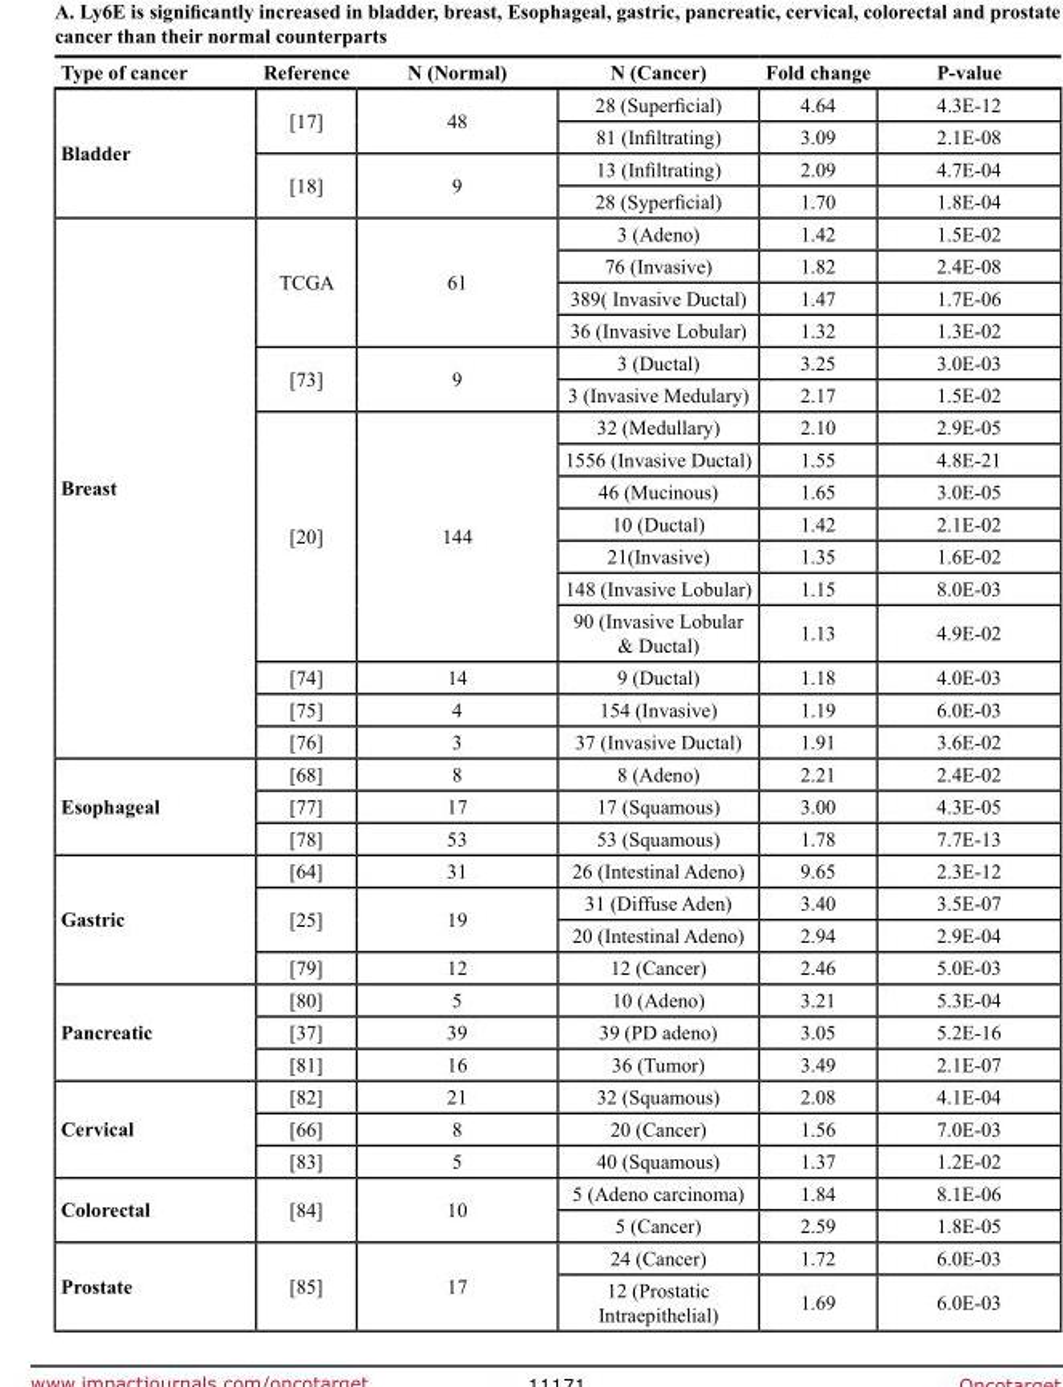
<table><thead><tr><td>Type of cancer</td><td>Reference</td><td>N (Normal)</td><td>N (Cancer)</td><td>Fold change</td><td>P-value</td></tr></thead><tbody><tr><td rowspan="4">Bladder</td><td rowspan="2">[17]</td><td rowspan="2">48</td><td>28 (Superficial)</td><td>4.64</td><td>4.3E-12</td></tr><tr><td>81 (Infiltrating)</td><td>3.09</td><td>2.1E-08</td></tr><tr><td rowspan="2">[18]</td><td rowspan="2">9</td><td>13 (Infiltrating)</td><td>2.09</td><td>4.7E-04</td></tr><tr><td>28 (Syperficial)</td><td>1.70</td><td>1.8E-04</td></tr><tr><td rowspan="16">Breast</td><td rowspan="4">TCGA</td><td rowspan="4">61</td><td>3 (Adeno)</td><td>1.42</td><td>1.5E-02</td></tr><tr><td>76 (Invasive)</td><td>1.82</td><td>2.4E-08</td></tr><tr><td>389( Invasive Ductal)</td><td>1.47</td><td>1.7E-06</td></tr><tr><td>36 (Invasive Lobular)</td><td>1.32</td><td>1.3E-02</td></tr><tr><td rowspan="2">[73]</td><td rowspan="2">9</td><td>3 (Ductal)</td><td>3.25</td><td>3.0E-03</td></tr><tr><td>3 (Invasive Medulary)</td><td>2.17</td><td>1.5E-02</td></tr><tr><td rowspan="7">[20]</td><td rowspan="7">144</td><td>32 (Medullary)</td><td>2.10</td><td>2.9E-05</td></tr><tr><td>1556 (Invasive Ductal)</td><td>1.55</td><td>4.8E-21</td></tr><tr><td>46 (Mucinous)</td><td>1.65</td><td>3.0E-05</td></tr><tr><td>10 (Ductal)</td><td>1.42</td><td>2.1E-02</td></tr><tr><td>21(Invasive)</td><td>1.35</td><td>1.6E-02</td></tr><tr><td>148 (Invasive Lobular)</td><td>1.15</td><td>8.0E-03</td></tr><tr><td>90 (Invasive Lobular &amp; Ductal)</td><td>1.13</td><td>4.9E-02</td></tr><tr><td>[74]</td><td>14</td><td>9 (Ductal)</td><td>1.18</td><td>4.0E-03</td></tr><tr><td>[75]</td><td>4</td><td>154 (Invasive)</td><td>1.19</td><td>6.0E-03</td></tr><tr><td>[76]</td><td>3</td><td>37 (Invasive Ductal)</td><td>1.91</td><td>3.6E-02</td></tr><tr><td rowspan="3">Esophageal</td><td>[68]</td><td>8</td><td>8 (Adeno)</td><td>2.21</td><td>2.4E-02</td></tr><tr><td>[77]</td><td>17</td><td>17 (Squamous)</td><td>3.00</td><td>4.3E-05</td></tr><tr><td>[78]</td><td>53</td><td>53 (Squamous)</td><td>1.78</td><td>7.7E-13</td></tr><tr><td rowspan="4">Gastric</td><td>[64]</td><td>31</td><td>26 (Intestinal Adeno)</td><td>9.65</td><td>2.3E-12</td></tr><tr><td rowspan="2">[25]</td><td rowspan="2">19</td><td>31 (Diffuse Aden)</td><td>3.40</td><td>3.5E-07</td></tr><tr><td>20 (Intestinal Adeno)</td><td>2.94</td><td>2.9E-04</td></tr><tr><td>[79]</td><td>12</td><td>12 (Cancer)</td><td>2.46</td><td>5.0E-03</td></tr><tr><td rowspan="3">Pancreatic</td><td>[80]</td><td>5</td><td>10 (Adeno)</td><td>3.21</td><td>5.3E-04</td></tr><tr><td>[37]</td><td>39</td><td>39 (PD adeno)</td><td>3.05</td><td>5.2E-16</td></tr><tr><td>[81]</td><td>16</td><td>36 (Tumor)</td><td>3.49</td><td>2.1E-07</td></tr><tr><td rowspan="3">Cervical</td><td>[82]</td><td>21</td><td>32 (Squamous)</td><td>2.08</td><td>4.1E-04</td></tr><tr><td>[66]</td><td>8</td><td>20 (Cancer)</td><td>1.56</td><td>7.0E-03</td></tr><tr><td>[83]</td><td>5</td><td>40 (Squamous)</td><td>1.37</td><td>1.2E-02</td></tr><tr><td rowspan="2">Colorectal</td><td rowspan="2">[84]</td><td rowspan="2">10</td><td>5 (Adeno carcinoma)</td><td>1.84</td><td>8.1E-06</td></tr><tr><td>5 (Cancer)</td><td>2.59</td><td>1.8E-05</td></tr><tr><td rowspan="2">Prostate</td><td rowspan="2">[85]</td><td rowspan="2">17</td><td>24 (Cancer)</td><td>1.72</td><td>6.0E-03</td></tr><tr><td>12 (Prostatic Intraepithelial)</td><td>1.69</td><td>6.0E-03</td></tr></tbody></table>